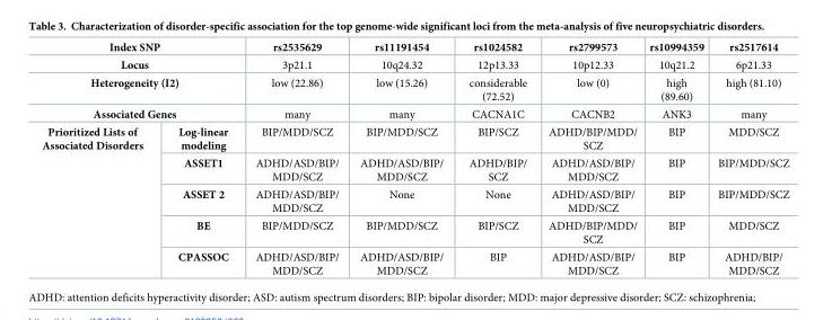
<table><thead><tr><td colspan="2">Index SNP</td><td>rs2535629</td><td>rs11191454</td><td>rs1024582</td><td>rs2799573</td><td>rs10994359</td><td>rs2517614</td></tr></thead><tbody><tr><td colspan="2">Locus</td><td>3p21.1</td><td>10q24.32</td><td>12p13.33</td><td>10p12.33</td><td>10q21.2</td><td>6p21.33</td></tr><tr><td colspan="2">Heterogeneity (I2)</td><td>low (22.86)</td><td>low (15.26)</td><td>considerable (72.52)</td><td>low (0)</td><td>high (89.60)</td><td>high (81.10)</td></tr><tr><td colspan="2">Associated Genes</td><td>many</td><td>many</td><td>CACNA1C</td><td>CACNB2</td><td>ANK3</td><td>many</td></tr><tr><td rowspan="5">Prioritized Lists of Associated Disorders</td><td>Log-linear modeling</td><td>BIP/MDD/SCZ</td><td>BIP/MDD/SCZ</td><td>BIP/SCZ</td><td>ADHD/BIP/MDD/ SCZ</td><td>BIP</td><td>MDD/SCZ</td></tr><tr><td>ASSET1</td><td>ADHD/ASD/BIP/ MDD/SCZ</td><td>ADHD/ASD/BIP/ MDD/SCZ</td><td>ADHD/BIP/ SCZ</td><td>ADHD/ASD/BIP/ MDD/SCZ</td><td>BIP</td><td>BIP/MDD/SCZ</td></tr><tr><td>ASSET 2</td><td>ADHD/ASD/BIP/ MDD/SCZ</td><td>None</td><td>None</td><td>ADHD/ASD/BIP/ MDD/SCZ</td><td>BIP</td><td>BIP/MDD/SCZ</td></tr><tr><td>BE</td><td>BIP/MDD/SCZ</td><td>BIP/MDD/SCZ</td><td>BIP/SCZ</td><td>ADHD/BIP/MDD/ SCZ</td><td>BIP</td><td>MDD/SCZ</td></tr><tr><td>CPASSOC</td><td>ADHD/ASD/BIP/ MDD/SCZ</td><td>ADHD/ASD/BIP/ MDD/SCZ</td><td>BIP</td><td>ADHD/ASD/BIP/ MDD/SCZ</td><td>BIP</td><td>ADHD/BIP/ MDD/SCZ</td></tr></tbody></table>